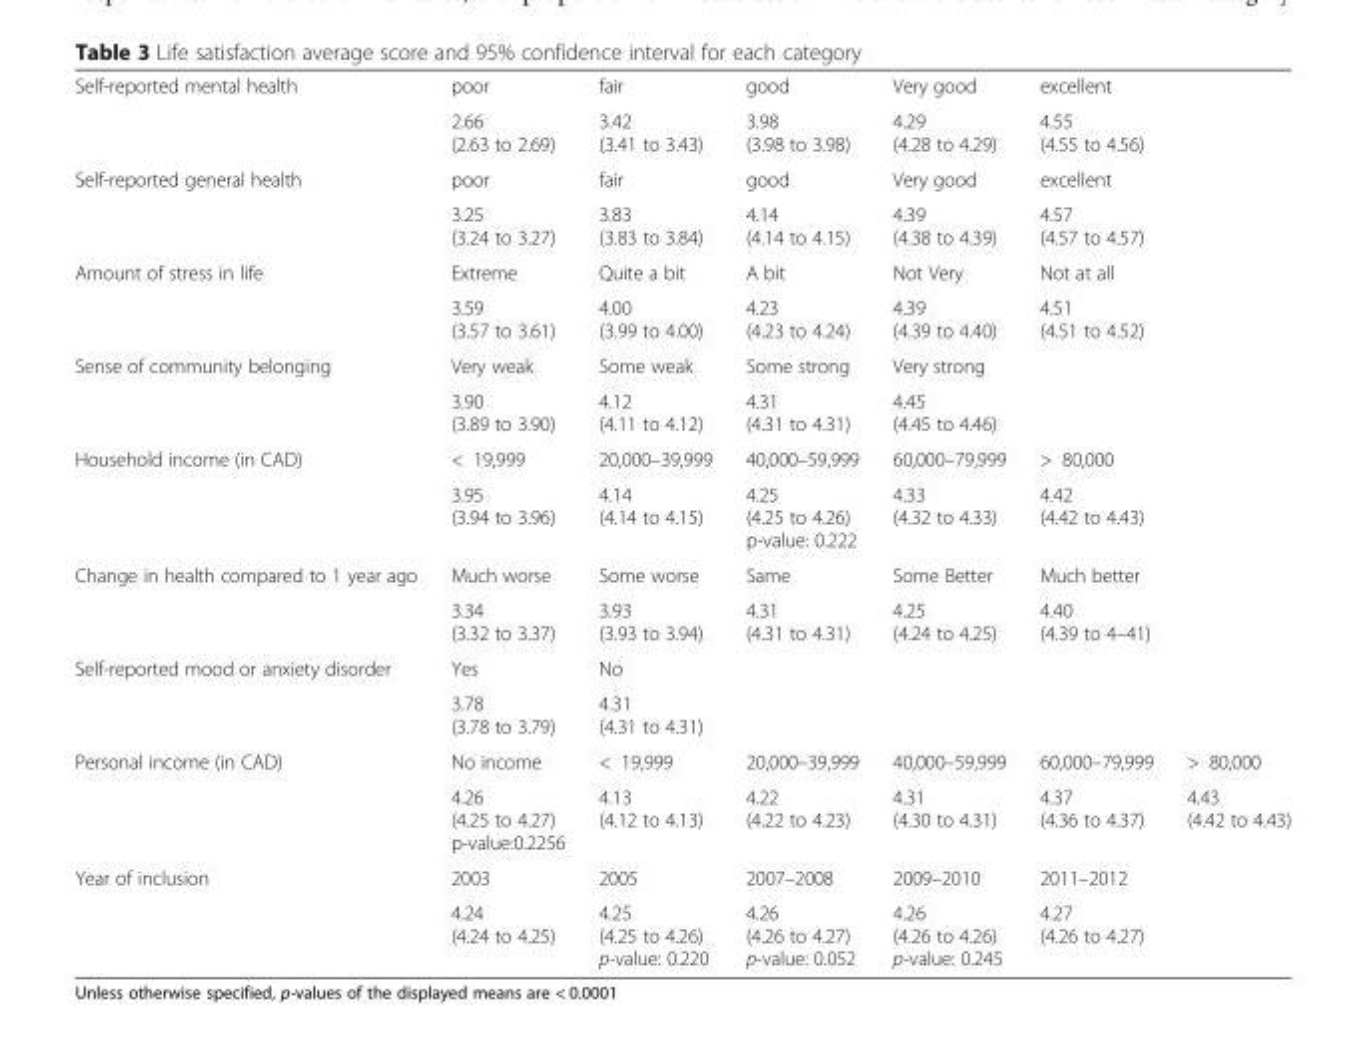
<table><tbody><tr><td rowspan="2">Self-reported mental health</td><td>poor</td><td>fair</td><td>good</td><td>Very good</td><td>excellent</td><td></td></tr><tr><td>2.66 (2.63 to 2.69)</td><td>3.42 (3.41 to 3.43)</td><td>3.98 (3.98 to 3.98)</td><td>4.29 (4.28 to 4.29)</td><td>4.55 (4.55 to 4.56)</td><td></td></tr><tr><td rowspan="2">Self-reported general health</td><td>poor</td><td>fair</td><td>good</td><td>Very good</td><td>excellent</td><td></td></tr><tr><td>3.25 (3.24 to 3.27)</td><td>3.83 (3.83 to 3.84)</td><td>4.14 (4.14 to 4.15)</td><td>4.39 (4.38 to 4.39)</td><td>4.57 (4.57 to 4.57)</td><td></td></tr><tr><td rowspan="2">Amount of stress in life</td><td>Extreme</td><td>Quite a bit</td><td>A bit</td><td>Not Very</td><td>Not at all</td><td></td></tr><tr><td>3.59 (3.57 to 3.61)</td><td>4.00 (3.99 to 4.00)</td><td>4.23 (4.23 to 4.24)</td><td>4.39 (4.39 to 4.40)</td><td>4.51 (4.51 to 4.52)</td><td></td></tr><tr><td rowspan="2">Sense of community belonging</td><td>Very weak</td><td>Some weak</td><td>Some strong</td><td>Very strong</td><td></td><td></td></tr><tr><td>3.90 (3.89 to 3.90)</td><td>4.12 (4.11 to 4.12)</td><td>4.31 (4.31 to 4.31)</td><td>4.45 (4.45 to 4.46)</td><td></td><td></td></tr><tr><td rowspan="2">Household income (in CAD)</td><td>&lt; 19,999</td><td>20,000–39,999</td><td>40,000–59,999</td><td>60,000–79,999</td><td>&gt; 80,000</td><td></td></tr><tr><td>3.95 (3.94 to 3.96)</td><td>4.14 (4.14 to 4.15)</td><td>4.25 (4.25 to 4.26) p-value: 0.222</td><td>4.33 (4.32 to 4.33)</td><td>4.42 (4.42 to 4.43)</td><td></td></tr><tr><td rowspan="2">Change in health compared to 1 year ago</td><td>Much worse</td><td>Some worse</td><td>Same</td><td>Some Better</td><td>Much better</td><td></td></tr><tr><td>3.34 (3.32 to 3.37)</td><td>3.93 (3.93 to 3.94)</td><td>4.31 (4.31 to 4.31)</td><td>4.25 (4.24 to 4.25)</td><td>4.40 (4.39 to 4–41)</td><td></td></tr><tr><td rowspan="2">Self-reported mood or anxiety disorder</td><td>Yes</td><td>No</td><td></td><td></td><td></td><td></td></tr><tr><td>3.78 (3.78 to 3.79)</td><td>4.31 (4.31 to 4.31)</td><td></td><td></td><td></td><td></td></tr><tr><td rowspan="2">Personal income (in CAD)</td><td>No income</td><td>&lt; 19,999</td><td>20,000–39,999</td><td>40,000–59,999</td><td>60,000–79,999</td><td>&gt; 80,000</td></tr><tr><td>4.26 (4.25 to 4.27) p-value:0.2256</td><td>4.13 (4.12 to 4.13)</td><td>4.22 (4.22 to 4.23)</td><td>4.31 (4.30 to 4.31)</td><td>4.37 (4.36 to 4.37)</td><td>4.43 (4.42 to 4.43)</td></tr><tr><td rowspan="2">Year of inclusion</td><td>2003</td><td>2005</td><td>2007–2008</td><td>2009–2010</td><td>2011–2012</td><td></td></tr><tr><td>4.24 (4.24 to 4.25)</td><td>4.25 (4.25 to 4.26) p-value: 0.220</td><td>4.26 (4.26 to 4.27) p-value: 0.052</td><td>4.26 (4.26 to 4.26) p-value: 0.245</td><td>4.27 (4.26 to 4.27)</td><td></td></tr></tbody></table>